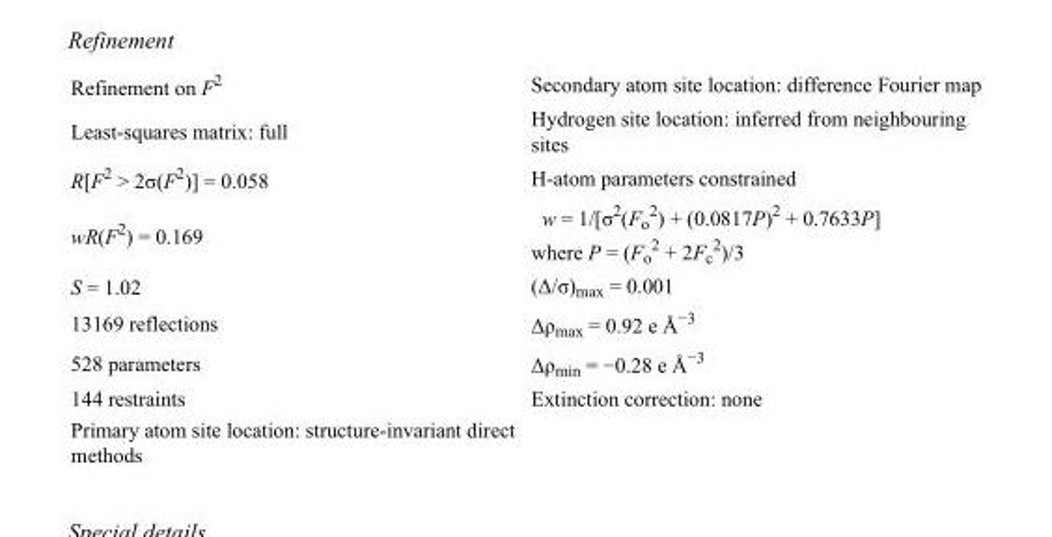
<table><tbody><tr><td>Refinement on F<sup>2</sup></td><td>Secondary atom site location: difference Fourier map</td></tr><tr><td>Least-squares matrix: full</td><td>Hydrogen site location: inferred from neighbouring sites</td></tr><tr><td>R[F<sup>2</sup> &gt; 2σ(F<sup>2</sup>)] = 0.058</td><td>H-atom parameters constrained</td></tr><tr><td>wR(F<sup>2</sup>) = 0.169</td><td>w = 1/[σ<sup>2</sup>(F<sub>o</sub> <sup>2</sup>) + (0.0817P)<sup>2</sup> + 0.7633P] where P = (F<sub>o</sub> <sup>2</sup> + 2F<sub>c</sub> <sup>2</sup>)/3</td></tr><tr><td>S = 1.02</td><td>(Δ/σ)<sub>max</sub> = 0.001</td></tr><tr><td>13169 reflections</td><td>Δρ<sub>max</sub> = 0.92 e Å<sup>−3</sup></td></tr><tr><td>528 parameters</td><td>Δρ<sub>min</sub> = −0.28 e Å<sup>−3</sup></td></tr><tr><td>144 restraints</td><td>Extinction correction: none</td></tr><tr><td>Primary atom site location: structure-invariant direct methods</td><td></td></tr></tbody></table>